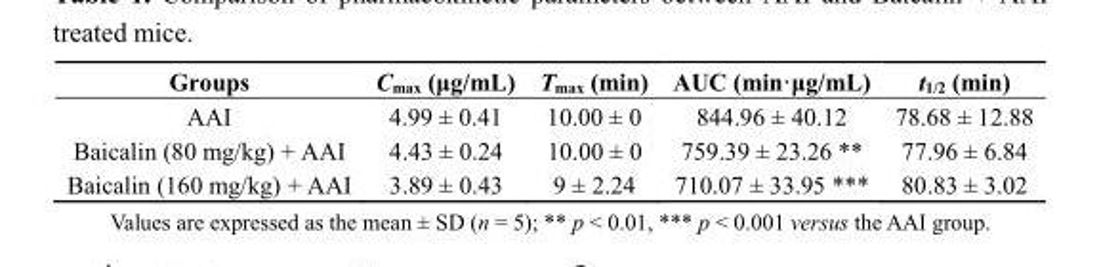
<table><thead><tr><td>Groups</td><td>C<sub>max</sub> (μg/mL)</td><td>T<sub>max</sub> (min)</td><td>AUC (min·μg/mL)</td><td>t<sub>1/2</sub> (min)</td></tr></thead><tbody><tr><td>AAI</td><td>4.99 ± 0.41</td><td>10.00 ± 0</td><td>844.96 ± 40.12</td><td>78.68 ± 12.88</td></tr><tr><td>Baicalin (80 mg/kg) + AAI</td><td>4.43 ± 0.24</td><td>10.00 ± 0</td><td>759.39 ± 23.26 **</td><td>77.96 ± 6.84</td></tr><tr><td>Baicalin (160 mg/kg) + AAI</td><td>3.89 ± 0.43</td><td>9 ± 2.24</td><td>710.07 ± 33.95 ***</td><td>80.83 ± 3.02</td></tr></tbody></table>